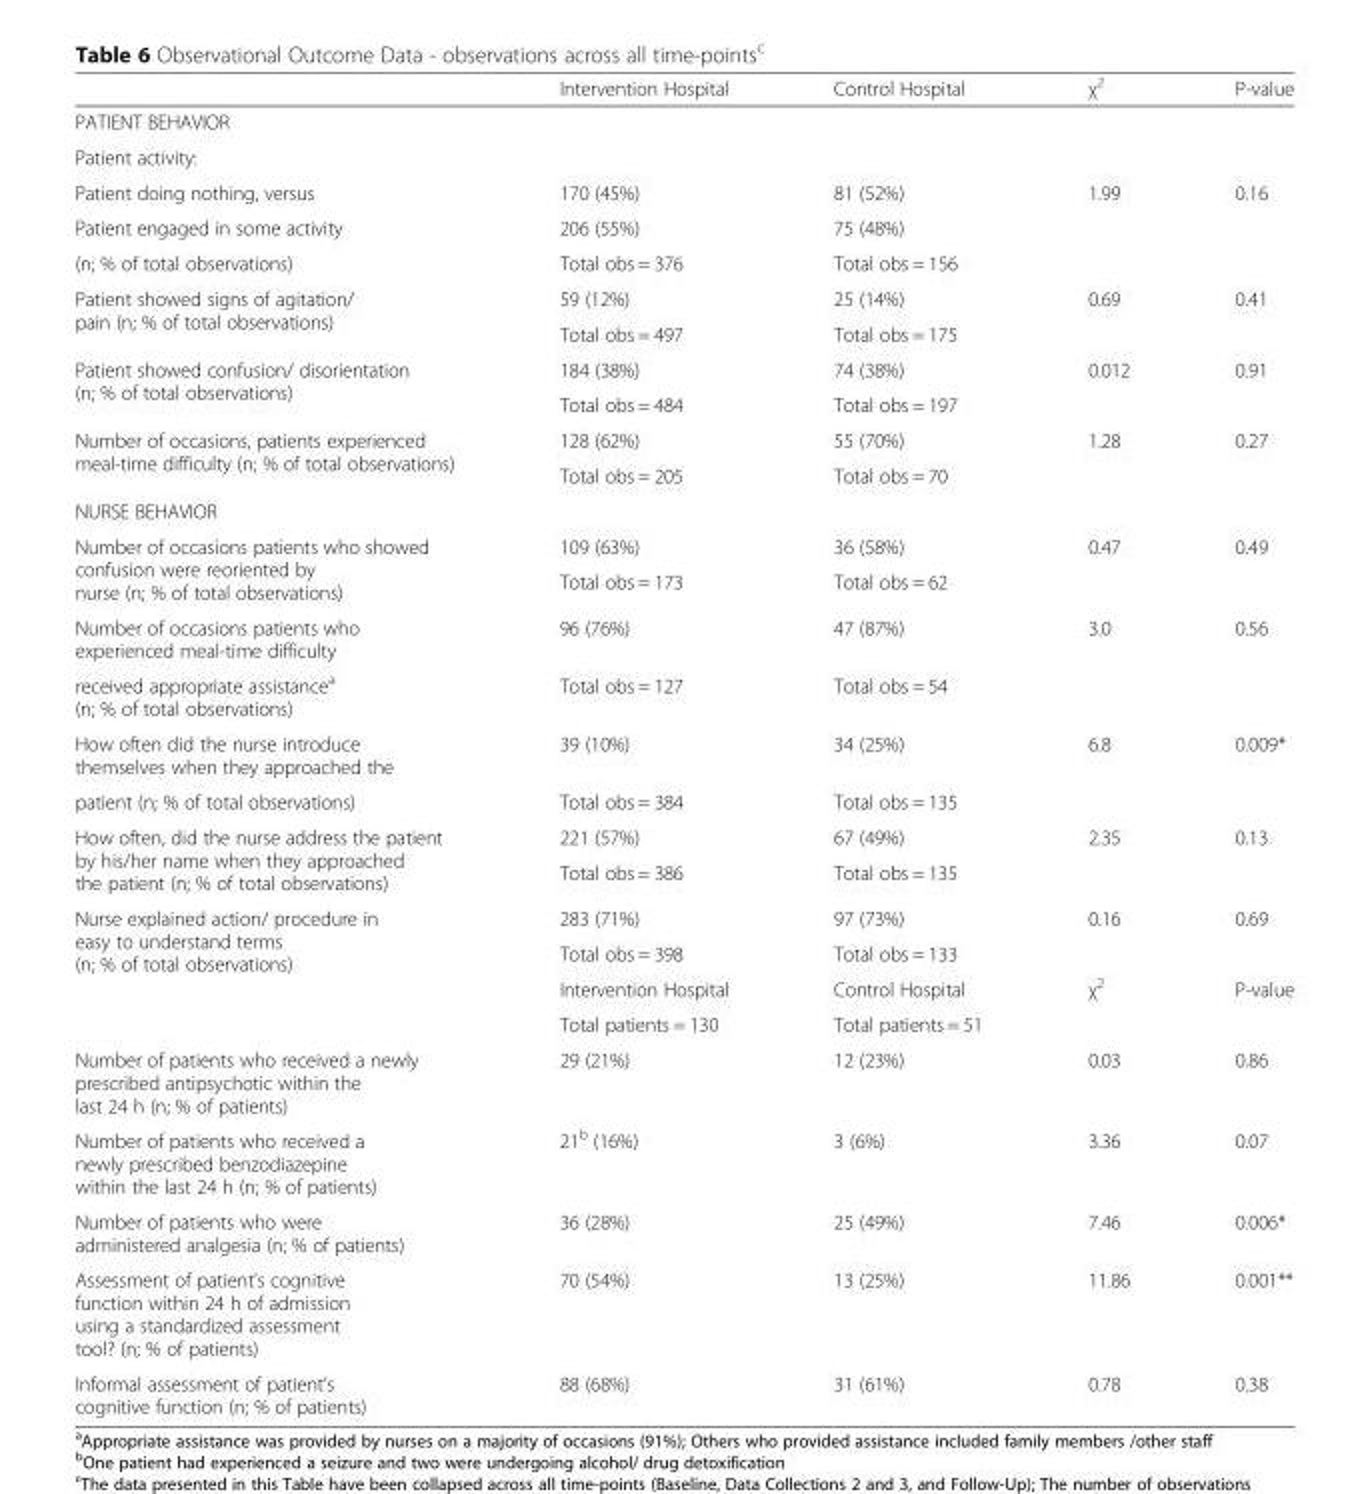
<table><thead><tr><td></td><td>Intervention Hospital</td><td>Control Hospital</td><td>χ<sup>2</sup></td><td>P-value</td></tr></thead><tbody><tr><td colspan="5">PATIENT BEHAVIOR</td></tr><tr><td colspan="5">Patient activity:</td></tr><tr><td>Patient doing nothing, versus</td><td>170 (45%)</td><td>81 (52%)</td><td rowspan="3">1.99</td><td rowspan="3">0.16</td></tr><tr><td>Patient engaged in some activity</td><td>206 (55%)</td><td>75 (48%)</td></tr><tr><td>(n; % of total observations)</td><td>Total obs = 376</td><td>Total obs = 156</td></tr><tr><td rowspan="2">Patient showed signs of agitation/ pain (n; % of total observations)</td><td>59 (12%)</td><td>25 (14%)</td><td rowspan="2">0.69</td><td rowspan="2">0.41</td></tr><tr><td>Total obs = 497</td><td>Total obs = 175</td></tr><tr><td rowspan="2">Patient showed confusion/ disorientation (n; % of total observations)</td><td>184 (38%)</td><td>74 (38%)</td><td rowspan="2">0.012</td><td rowspan="2">0.91</td></tr><tr><td>Total obs = 484</td><td>Total obs = 197</td></tr><tr><td rowspan="2">Number of occasions, patients experienced meal-time difficulty (n; % of total observations)</td><td>128 (62%)</td><td>55 (70%)</td><td rowspan="2">1.28</td><td rowspan="2">0.27</td></tr><tr><td>Total obs = 205</td><td>Total obs = 70</td></tr><tr><td colspan="5">NURSE BEHAVIOR</td></tr><tr><td rowspan="2">Number of occasions patients who showed confusion were reoriented by nurse (n; % of total observations)</td><td>109 (63%)</td><td>36 (58%)</td><td rowspan="2">0.47</td><td rowspan="2">0.49</td></tr><tr><td>Total obs = 173</td><td>Total obs = 62</td></tr><tr><td>Number of occasions patients who experienced meal-time difficulty</td><td>96 (76%)</td><td>47 (87%)</td><td rowspan="2">3.0</td><td rowspan="2">0.56</td></tr><tr><td>received appropriate assistance<sup>a</sup> (n; % of total observations)</td><td>Total obs = 127</td><td>Total obs = 54</td></tr><tr><td>How often did the nurse introduce themselves when they approached the</td><td>39 (10%)</td><td>34 (25%)</td><td rowspan="2">6.8</td><td rowspan="2">0.009*</td></tr><tr><td>patient (n; % of total observations)</td><td>Total obs = 384</td><td>Total obs = 135</td></tr><tr><td rowspan="2">How often, did the nurse address the patient by his/her name when they approached the patient (n; % of total observations)</td><td>221 (57%)</td><td>67 (49%)</td><td rowspan="2">2.35</td><td rowspan="2">0.13</td></tr><tr><td>Total obs = 386</td><td>Total obs = 135</td></tr><tr><td rowspan="4">Nurse explained action/ procedure in easy to understand terms (n; % of total observations)</td><td>283 (71%)</td><td>97 (73%)</td><td rowspan="2">0.16</td><td rowspan="2">0.69</td></tr><tr><td>Total obs = 398</td><td>Total obs = 133</td></tr><tr><td>Intervention Hospital</td><td>Control Hospital</td><td rowspan="2">χ<sup>2</sup></td><td rowspan="2">P-value</td></tr><tr><td>Total patients = 130</td><td>Total patients = 51</td></tr><tr><td>Number of patients who received a newly prescribed antipsychotic within the last 24 h (n; % of patients)</td><td>29 (21%)</td><td>12 (23%)</td><td>0.03</td><td>0.86</td></tr><tr><td>Number of patients who received a newly prescribed benzodiazepine within the last 24 h (n; % of patients)</td><td>21<sup>b</sup> (16%)</td><td>3 (6%)</td><td>3.36</td><td>0.07</td></tr><tr><td>Number of patients who were administered analgesia (n; % of patients)</td><td>36 (28%)</td><td>25 (49%)</td><td>7.46</td><td>0.006*</td></tr><tr><td>Assessment of patient’s cognitive function within 24 h of admission using a standardized assessment tool? (n; % of patients)</td><td>70 (54%)</td><td>13 (25%)</td><td>11.86</td><td>0.001**</td></tr><tr><td>Informal assessment of patient’s cognitive function (n; % of patients)</td><td>88 (68%)</td><td>31 (61%)</td><td>0.78</td><td>0.38</td></tr></tbody></table>